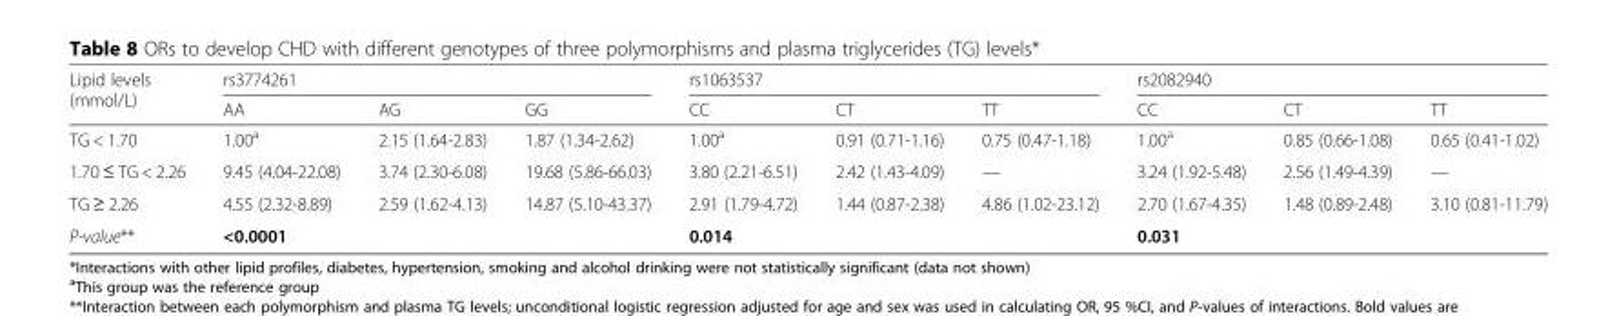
<table><thead><tr><td rowspan="2">Lipid levels (mmol/L)</td><td colspan="3">rs3774261</td><td colspan="3">rs1063537</td><td colspan="3">rs2082940</td></tr><tr><td>AA</td><td>AG</td><td>GG</td><td>CC</td><td>CT</td><td>TT</td><td>CC</td><td>CT</td><td>TT</td></tr></thead><tbody><tr><td>TG &lt; 1.70</td><td>1.00<sup>a</sup></td><td>2.15 (1.64-2.83)</td><td>1.87 (1.34-2.62)</td><td>1.00<sup>a</sup></td><td>0.91 (0.71-1.16)</td><td>0.75 (0.47-1.18)</td><td>1.00<sup>a</sup></td><td>0.85 (0.66-1.08)</td><td>0.65 (0.41-1.02)</td></tr><tr><td>1.70 ≤ TG &lt; 2.26</td><td>9.45 (4.04-22.08)</td><td>3.74 (2.30-6.08)</td><td>19.68 (5.86-66.03)</td><td>3.80 (2.21-6.51)</td><td>2.42 (1.43-4.09)</td><td>—</td><td>3.24 (1.92-5.48)</td><td>2.56 (1.49-4.39)</td><td>—</td></tr><tr><td>TG ≥ 2.26</td><td>4.55 (2.32-8.89)</td><td>2.59 (1.62-4.13)</td><td>14.87 (5.10-43.37)</td><td>2.91 (1.79-4.72)</td><td>1.44 (0.87-2.38)</td><td>4.86 (1.02-23.12)</td><td>2.70 (1.67-4.35)</td><td>1.48 (0.89-2.48)</td><td>3.10 (0.81-11.79)</td></tr><tr><td>P-value**</td><td colspan="3">&lt;0.0001</td><td colspan="3">0.014</td><td colspan="3">0.031</td></tr></tbody></table>